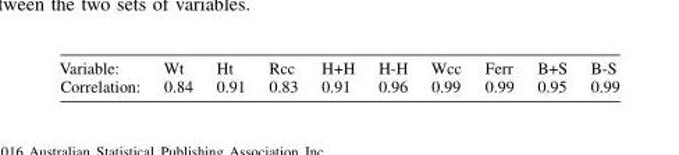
<table><tbody><tr><td>Variable:</td><td>Wt</td><td>Ht</td><td>Rcc</td><td>H+H</td><td>H-H</td><td>Wcc</td><td>Ferr</td><td>B+S</td><td>B-S</td></tr><tr><td>Correlation:</td><td>0.84</td><td>0.91</td><td>0.83</td><td>0.91</td><td>0.96</td><td>0.99</td><td>0.99</td><td>0.95</td><td>0.99</td></tr></tbody></table>